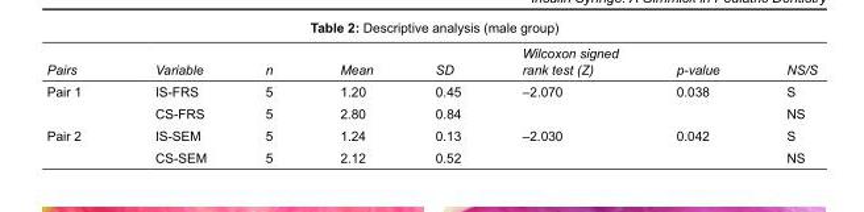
<table><tbody><tr><td>Pairs</td><td>Variable</td><td>n</td><td>Mean</td><td>SD</td><td>Wilcoxon signed rank test (Z)</td><td>p-value</td><td>NS/S</td></tr><tr><td rowspan="2">Pair 1</td><td>IS-FRS</td><td>5</td><td>1.20</td><td>0.45</td><td>–2.070</td><td>0.038</td><td>S</td></tr><tr><td>CS-FRS</td><td>5</td><td>2.80</td><td>0.84</td><td></td><td></td><td>NS</td></tr><tr><td rowspan="2">Pair 2</td><td>IS-SEM</td><td>5</td><td>1.24</td><td>0.13</td><td>–2.030</td><td>0.042</td><td>S</td></tr><tr><td>CS-SEM</td><td>5</td><td>2.12</td><td>0.52</td><td></td><td></td><td>NS</td></tr></tbody></table>